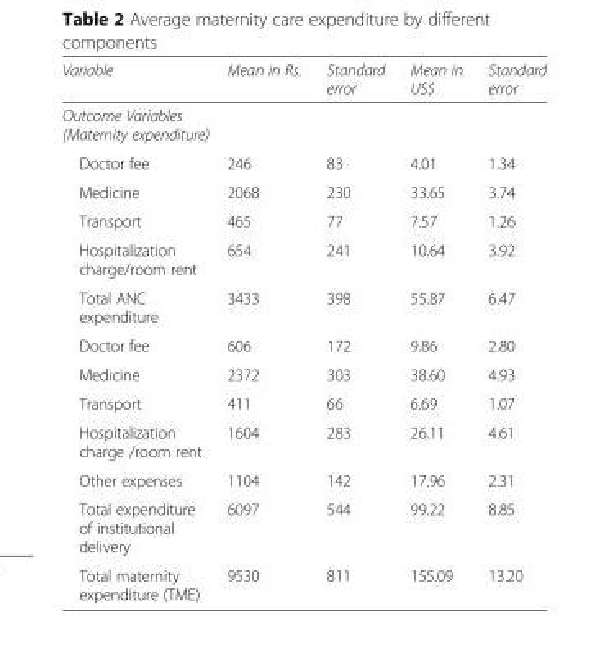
<table><thead><tr><td>Variable</td><td>Mean in Rs.</td><td>Standard error</td><td>Mean in US$</td><td>Standard error</td></tr></thead><tbody><tr><td colspan="5">Outcome Variables (Maternity expenditure)</td></tr><tr><td>Doctor fee</td><td>246</td><td>83</td><td>4.01</td><td>1.34</td></tr><tr><td>Medicine</td><td>2068</td><td>230</td><td>33.65</td><td>3.74</td></tr><tr><td>Transport</td><td>465</td><td>77</td><td>7.57</td><td>1.26</td></tr><tr><td>Hospitalization charge/room rent</td><td>654</td><td>241</td><td>10.64</td><td>3.92</td></tr><tr><td>Total ANC expenditure</td><td>3433</td><td>398</td><td>55.87</td><td>6.47</td></tr><tr><td>Doctor fee</td><td>606</td><td>172</td><td>9.86</td><td>2.80</td></tr><tr><td>Medicine</td><td>2372</td><td>303</td><td>38.60</td><td>4.93</td></tr><tr><td>Transport</td><td>411</td><td>66</td><td>6.69</td><td>1.07</td></tr><tr><td>Hospitalization charge /room rent</td><td>1604</td><td>283</td><td>26.11</td><td>4.61</td></tr><tr><td>Other expenses</td><td>1104</td><td>142</td><td>17.96</td><td>2.31</td></tr><tr><td>Total expenditure of institutional delivery</td><td>6097</td><td>544</td><td>99.22</td><td>8.85</td></tr><tr><td>Total maternity expenditure (TME)</td><td>9530</td><td>811</td><td>155.09</td><td>13.20</td></tr></tbody></table>